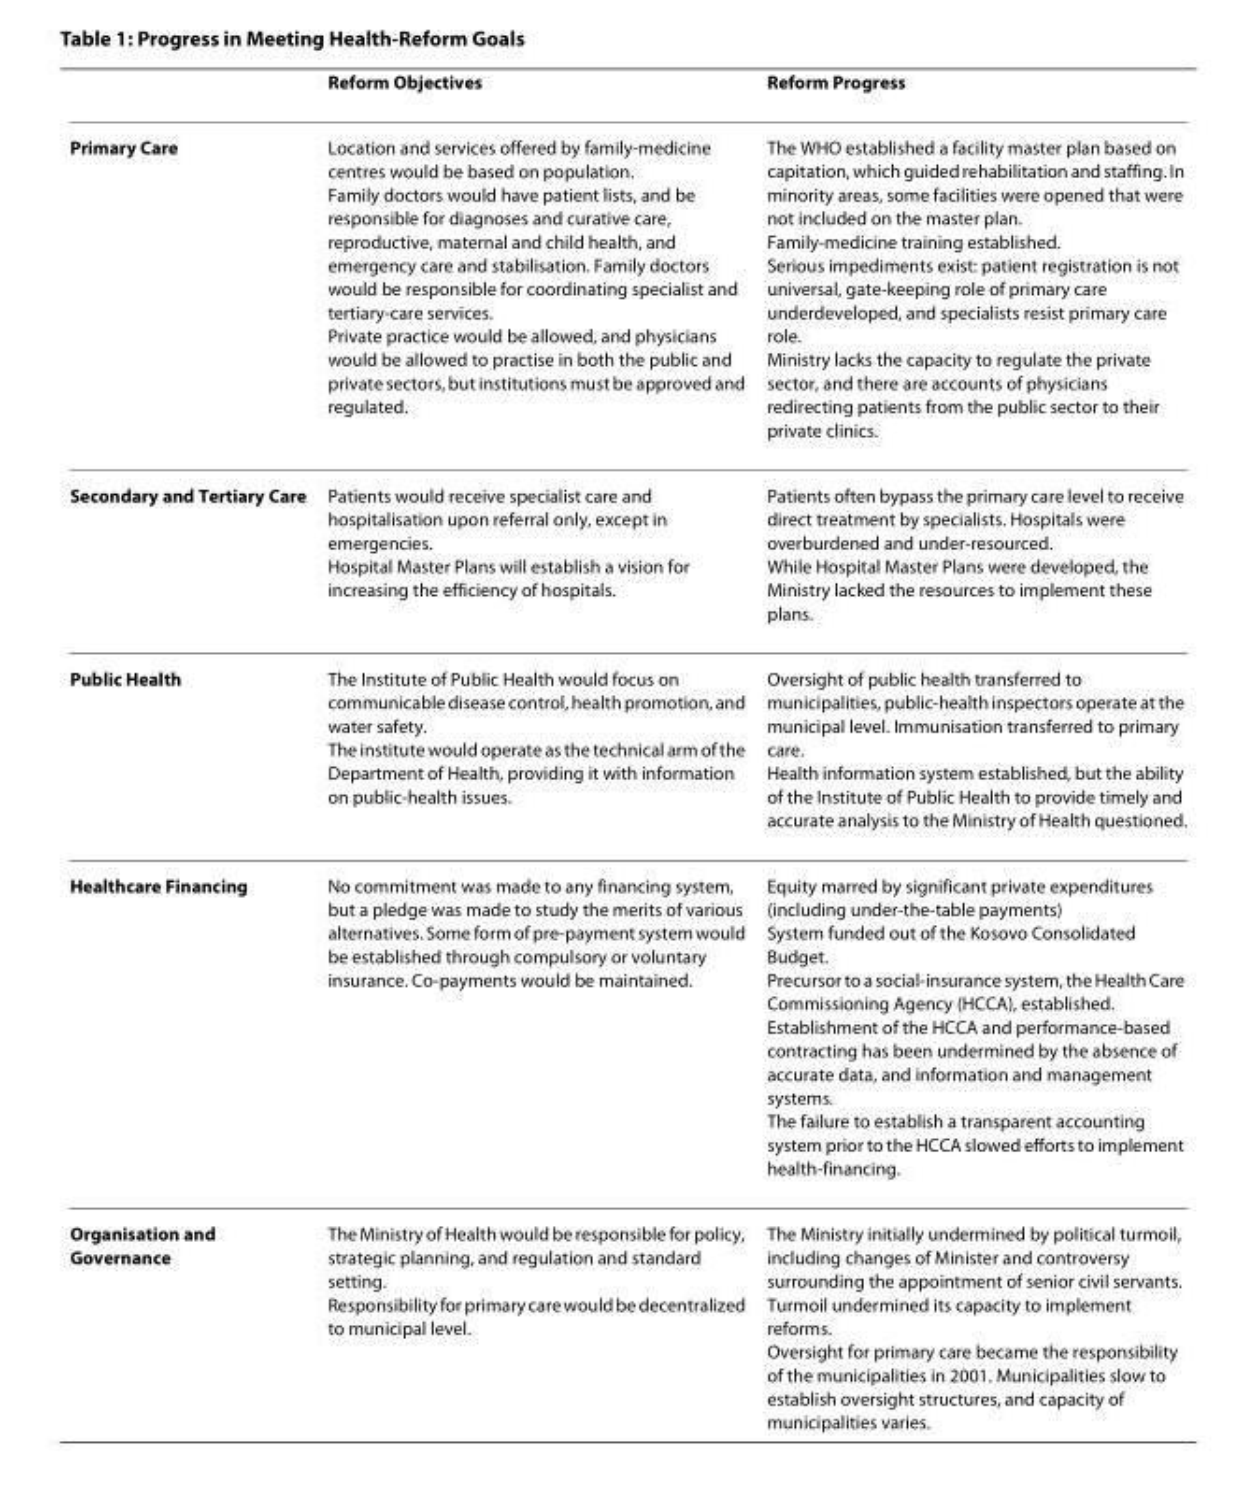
<table><thead><tr><td></td><td>Reform Objectives</td><td>Reform Progress</td></tr></thead><tbody><tr><td>Primary Care</td><td>Location and services offered by family-medicine centres would be based on population. Family doctors would have patient lists, and be responsible for diagnoses and curative care, reproductive, maternal and child health, and emergency care and stabilisation. Family doctors would be responsible for coordinating specialist and tertiary-care services. Private practice would be allowed, and physicians would be allowed to practise in both the public and private sectors, but institutions must be approved and regulated.</td><td>The WHO established a facility master plan based on capitation, which guided rehabilitation and staffing. In minority areas, some facilities were opened that were not included on the master plan. Family-medicine training established. Serious impediments exist: patient registration is not universal, gate-keeping role of primary care underdeveloped, and specialists resist primary care role. Ministry lacks the capacity to regulate the private sector, and there are accounts of physicians redirecting patients from the public sector to their private clinics.</td></tr><tr><td>Secondary and Tertiary Care</td><td>Patients would receive specialist care and hospitalisation upon referral only, except in emergencies. Hospital Master Plans will establish a vision for increasing the efficiency of hospitals.</td><td>Patients often bypass the primary care level to receive direct treatment by specialists. Hospitals were overburdened and under-resourced. While Hospital Master Plans were developed, the Ministry lacked the resources to implement these plans.</td></tr><tr><td>Public Health</td><td>The Institute of Public Health would focus on communicable disease control, health promotion, and water safety. The institute would operate as the technical arm of the Department of Health, providing it with information on public-health issues.</td><td>Oversight of public health transferred to municipalities, public-health inspectors operate at the municipal level. Immunisation transferred to primary care. Health information system established, but the ability of the Institute of Public Health to provide timely and accurate analysis to the Ministry of Health questioned.</td></tr><tr><td>Healthcare Financing</td><td>No commitment was made to any financing system, but a pledge was made to study the merits of various alternatives. Some form of pre-payment system would be established through compulsory or voluntary insurance. Co-payments would be maintained.</td><td>Equity marred by significant private expenditures (including under-the-table payments) System funded out of the Kosovo Consolidated Budget. Precursor to a social-insurance system, the Health Care Commissioning Agency (HCCA), established. Establishment of the HCCA and performance-based contracting has been undermined by the absence of accurate data, and information and management systems. The failure to establish a transparent accounting system prior to the HCCA slowed efforts to implement health-financing.</td></tr><tr><td>Organisation and Governance</td><td>The Ministry of Health would be responsible for policy, strategic planning, and regulation and standard setting. Responsibility for primary care would be decentralized to municipal level.</td><td>The Ministry initially undermined by political turmoil, including changes of Minister and controversy surrounding the appointment of senior civil servants. Turmoil undermined its capacity to implement reforms. Oversight for primary care became the responsibility of the municipalities in 2001. Municipalities slow to establish oversight structures, and capacity of municipalities varies.</td></tr></tbody></table>